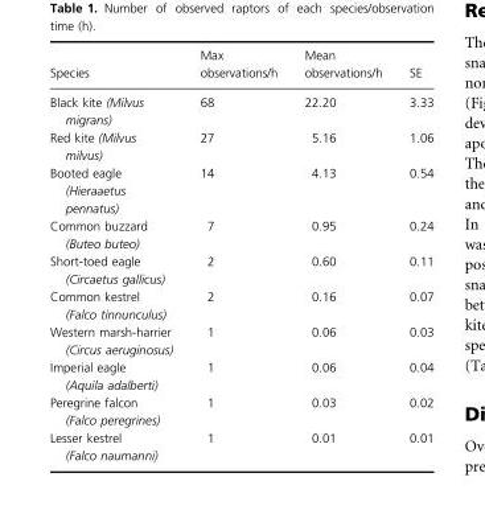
<table><thead><tr><td>Species</td><td>Max observations/h</td><td>Mean observations/h</td><td>SE</td></tr></thead><tbody><tr><td>Black kite (Milvus migrans)</td><td>68</td><td>22.20</td><td>3.33</td></tr><tr><td>Red kite (Milvus milvus)</td><td>27</td><td>5.16</td><td>1.06</td></tr><tr><td>Booted eagle (Hieraaetus pennatus)</td><td>14</td><td>4.13</td><td>0.54</td></tr><tr><td>Common buzzard (Buteo buteo)</td><td>7</td><td>0.95</td><td>0.24</td></tr><tr><td>Short-toed eagle (Circaetus gallicus)</td><td>2</td><td>0.60</td><td>0.11</td></tr><tr><td>Common kestrel (Falco tinnunculus)</td><td>2</td><td>0.16</td><td>0.07</td></tr><tr><td>Western marsh-harrier (Circus aeruginosus)</td><td>1</td><td>0.06</td><td>0.03</td></tr><tr><td>Imperial eagle (Aquila adalberti)</td><td>1</td><td>0.06</td><td>0.04</td></tr><tr><td>Peregrine falcon (Falco peregrines)</td><td>1</td><td>0.03</td><td>0.02</td></tr><tr><td>Lesser kestrel (Falco naumanni)</td><td>1</td><td>0.01</td><td>0.01</td></tr></tbody></table>